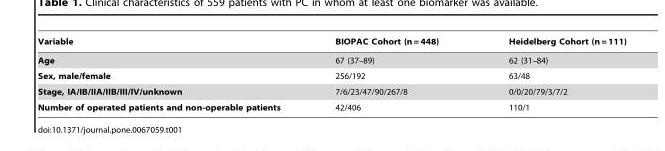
<table><thead><tr><td>Variable</td><td>BIOPAC Cohort (n = 448)</td><td>Heidelberg Cohort (n = 111)</td></tr></thead><tbody><tr><td>Age</td><td>67 (37–89)</td><td>62 (31–84)</td></tr><tr><td>Sex, male/female</td><td>256/192</td><td>63/48</td></tr><tr><td>Stage, IA/IB/IIA/IIB/III/IV/unknown</td><td>7/6/23/47/90/267/8</td><td>0/0/20/79/3/7/2</td></tr><tr><td>Number of operated patients and non-operable patients</td><td>42/406</td><td>110/1</td></tr></tbody></table>